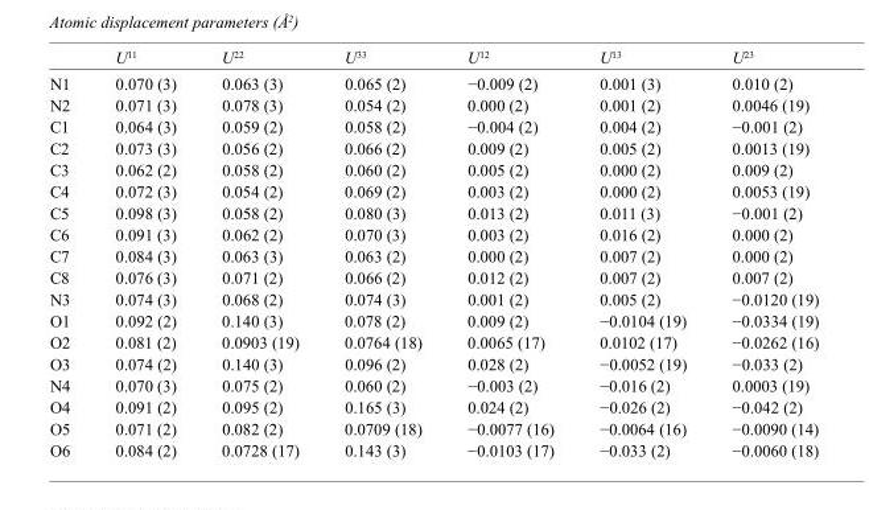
<table><thead><tr><td></td><td>U<sup>11</sup></td><td>U<sup>22</sup></td><td>U<sup>33</sup></td><td>U<sup>12</sup></td><td>U<sup>13</sup></td><td>U<sup>23</sup></td></tr></thead><tbody><tr><td>N1</td><td>0.070 (3)</td><td>0.063 (3)</td><td>0.065 (2)</td><td>−0.009 (2)</td><td>0.001 (3)</td><td>0.010 (2)</td></tr><tr><td>N2</td><td>0.071 (3)</td><td>0.078 (3)</td><td>0.054 (2)</td><td>0.000 (2)</td><td>0.001 (2)</td><td>0.0046 (19)</td></tr><tr><td>C1</td><td>0.064 (3)</td><td>0.059 (2)</td><td>0.058 (2)</td><td>−0.004 (2)</td><td>0.004 (2)</td><td>−0.001 (2)</td></tr><tr><td>C2</td><td>0.073 (3)</td><td>0.056 (2)</td><td>0.066 (2)</td><td>0.009 (2)</td><td>0.005 (2)</td><td>0.0013 (19)</td></tr><tr><td>C3</td><td>0.062 (2)</td><td>0.058 (2)</td><td>0.060 (2)</td><td>0.005 (2)</td><td>0.000 (2)</td><td>0.009 (2)</td></tr><tr><td>C4</td><td>0.072 (3)</td><td>0.054 (2)</td><td>0.069 (2)</td><td>0.003 (2)</td><td>0.000 (2)</td><td>0.0053 (19)</td></tr><tr><td>C5</td><td>0.098 (3)</td><td>0.058 (2)</td><td>0.080 (3)</td><td>0.013 (2)</td><td>0.011 (3)</td><td>−0.001 (2)</td></tr><tr><td>C6</td><td>0.091 (3)</td><td>0.062 (2)</td><td>0.070 (3)</td><td>0.003 (2)</td><td>0.016 (2)</td><td>0.000 (2)</td></tr><tr><td>C7</td><td>0.084 (3)</td><td>0.063 (3)</td><td>0.063 (2)</td><td>0.000 (2)</td><td>0.007 (2)</td><td>0.000 (2)</td></tr><tr><td>C8</td><td>0.076 (3)</td><td>0.071 (2)</td><td>0.066 (2)</td><td>0.012 (2)</td><td>0.007 (2)</td><td>0.007 (2)</td></tr><tr><td>N3</td><td>0.074 (3)</td><td>0.068 (2)</td><td>0.074 (3)</td><td>0.001 (2)</td><td>0.005 (2)</td><td>−0.0120 (19)</td></tr><tr><td>O1</td><td>0.092 (2)</td><td>0.140 (3)</td><td>0.078 (2)</td><td>0.009 (2)</td><td>−0.0104 (19)</td><td>−0.0334 (19)</td></tr><tr><td>O2</td><td>0.081 (2)</td><td>0.0903 (19)</td><td>0.0764 (18)</td><td>0.0065 (17)</td><td>0.0102 (17)</td><td>−0.0262 (16)</td></tr><tr><td>O3</td><td>0.074 (2)</td><td>0.140 (3)</td><td>0.096 (2)</td><td>0.028 (2)</td><td>−0.0052 (19)</td><td>−0.033 (2)</td></tr><tr><td>N4</td><td>0.070 (3)</td><td>0.075 (2)</td><td>0.060 (2)</td><td>−0.003 (2)</td><td>−0.016 (2)</td><td>0.0003 (19)</td></tr><tr><td>O4</td><td>0.091 (2)</td><td>0.095 (2)</td><td>0.165 (3)</td><td>0.024 (2)</td><td>−0.026 (2)</td><td>−0.042 (2)</td></tr><tr><td>O5</td><td>0.071 (2)</td><td>0.082 (2)</td><td>0.0709 (18)</td><td>−0.0077 (16)</td><td>−0.0064 (16)</td><td>−0.0090 (14)</td></tr><tr><td>O6</td><td>0.084 (2)</td><td>0.0728 (17)</td><td>0.143 (3)</td><td>−0.0103 (17)</td><td>−0.033 (2)</td><td>−0.0060 (18)</td></tr></tbody></table>